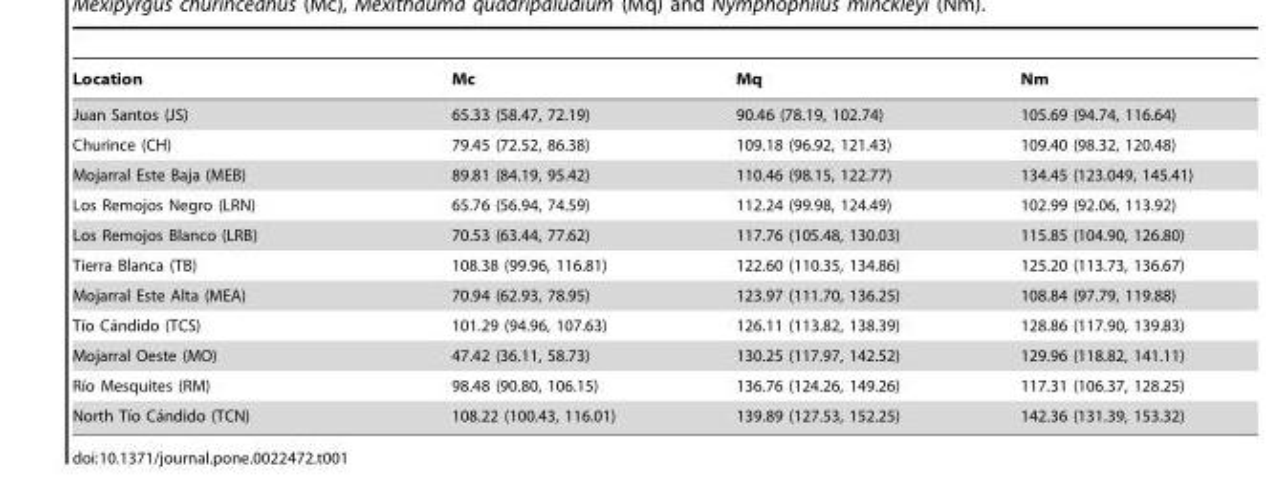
<table><thead><tr><td>Location</td><td>Mc</td><td>Mq</td><td>Nm</td></tr></thead><tbody><tr><td>Juan Santos (JS)</td><td>65.33 (58.47, 72.19)</td><td>90.46 (78.19, 102.74)</td><td>105.69 (94.74, 116.64)</td></tr><tr><td>Churince (CH)</td><td>79.45 (72.52, 86.38)</td><td>109.18 (96.92, 121.43)</td><td>109.40 (98.32, 120.48)</td></tr><tr><td>Mojarral Este Baja (MEB)</td><td>89.81 (84.19, 95.42)</td><td>110.46 (98.15, 122.77)</td><td>134.45 (123.049, 145.41)</td></tr><tr><td>Los Remojos Negro (LRN)</td><td>65.76 (56.94, 74.59)</td><td>112.24 (99.98, 124.49)</td><td>102.99 (92.06, 113.92)</td></tr><tr><td>Los Remojos Blanco (LRB)</td><td>70.53 (63.44, 77.62)</td><td>117.76 (105.48, 130.03)</td><td>115.85 (104.90, 126.80)</td></tr><tr><td>Tierra Blanca (TB)</td><td>108.38 (99.96, 116.81)</td><td>122.60 (110.35, 134.86)</td><td>125.20 (113.73, 136.67)</td></tr><tr><td>Mojarral Este Alta (MEA)</td><td>70.94 (62.93, 78.95)</td><td>123.97 (111.70, 136.25)</td><td>108.84 (97.79, 119.88)</td></tr><tr><td>Tı´o Ca´ndido (TCS)</td><td>101.29 (94.96, 107.63)</td><td>126.11 (113.82, 138.39)</td><td>128.86 (117.90, 139.83)</td></tr><tr><td>Mojarral Oeste (MO)</td><td>47.42 (36.11, 58.73)</td><td>130.25 (117.97, 142.52)</td><td>129.96 (118.82, 141.11)</td></tr><tr><td>Rı´o Mesquites (RM)</td><td>98.48 (90.80, 106.15)</td><td>136.76 (124.26, 149.26)</td><td>117.31 (106.37, 128.25)</td></tr><tr><td>North Tı´o Ca´ndido (TCN)</td><td>108.22 (100.43, 116.01)</td><td>139.89 (127.53, 152.25)</td><td>142.36 (131.39, 153.32)</td></tr></tbody></table>